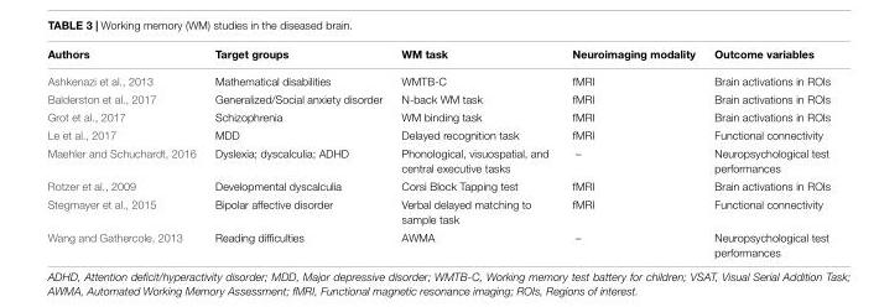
<table><thead><tr><td>Authors</td><td>Target groups</td><td>WM task</td><td>Neuroimaging modality</td><td>Outcome variables</td></tr></thead><tbody><tr><td>Ashkenazi et al., 2013</td><td>Mathematical disabilities</td><td>WMTB-C</td><td>fMRI</td><td>Brain activations in ROIs</td></tr><tr><td>Balderston et al., 2017</td><td>Generalized/Social anxiety disorder</td><td>N-back WM task</td><td>fMRI</td><td>Brain activations in ROIs</td></tr><tr><td>Grot et al., 2017</td><td>Schizophrenia</td><td>WM binding task</td><td>fMRI</td><td>Brain activations in ROIs</td></tr><tr><td>Le et al., 2017</td><td>MDD</td><td>Delayed recognition task</td><td>fMRI</td><td>Functional connectivity</td></tr><tr><td>Maehler and Schuchardt, 2016</td><td>Dyslexia; dyscalculia; ADHD</td><td>Phonological, visuospatial, and central executive tasks</td><td>–</td><td>Neuropsychological test performances</td></tr><tr><td>Rotzer et al., 2009</td><td>Developmental dyscalculia</td><td>Corsi Block Tapping test</td><td>fMRI</td><td>Brain activations in ROIs</td></tr><tr><td>Stegmayer et al., 2015</td><td>Bipolar affective disorder</td><td>Verbal delayed matching to sample task</td><td>fMRI</td><td>Functional connectivity</td></tr><tr><td>Wang and Gathercole, 2013</td><td>Reading difficulties</td><td>AWMA</td><td>–</td><td>Neuropsychological test performances</td></tr></tbody></table>